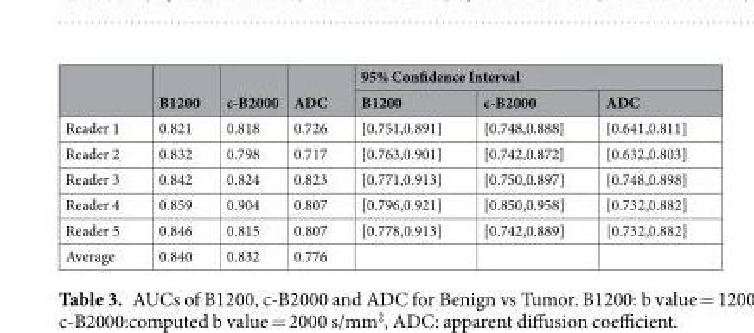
<table><thead><tr><td rowspan="2"></td><td rowspan="2">B1200</td><td rowspan="2">c-B2000</td><td rowspan="2">ADC</td><td colspan="3">95% Confidence Interval</td></tr><tr><td>B1200</td><td>c-B2000</td><td>ADC</td></tr></thead><tbody><tr><td>Reader 1</td><td>0.821</td><td>0.818</td><td>0.726</td><td>[0.751,0.891]</td><td>[0.748,0.888]</td><td>[0.641,0.811]</td></tr><tr><td>Reader 2</td><td>0.832</td><td>0.798</td><td>0.717</td><td>[0.763,0.901]</td><td>[0.742,0.872]</td><td>[0.632,0.803]</td></tr><tr><td>Reader 3</td><td>0.842</td><td>0.824</td><td>0.823</td><td>[0.771,0.913]</td><td>[0.750,0.897]</td><td>[0.748,0.898]</td></tr><tr><td>Reader 4</td><td>0.859</td><td>0.904</td><td>0.807</td><td>[0.796,0.921]</td><td>[0.850,0.958]</td><td>[0.732,0.882]</td></tr><tr><td>Reader 5</td><td>0.846</td><td>0.815</td><td>0.807</td><td>[0.778,0.913]</td><td>[0.742,0.889]</td><td>[0.732,0.882]</td></tr><tr><td>Average</td><td>0.840</td><td>0.832</td><td>0.776</td><td></td><td></td><td></td></tr></tbody></table>